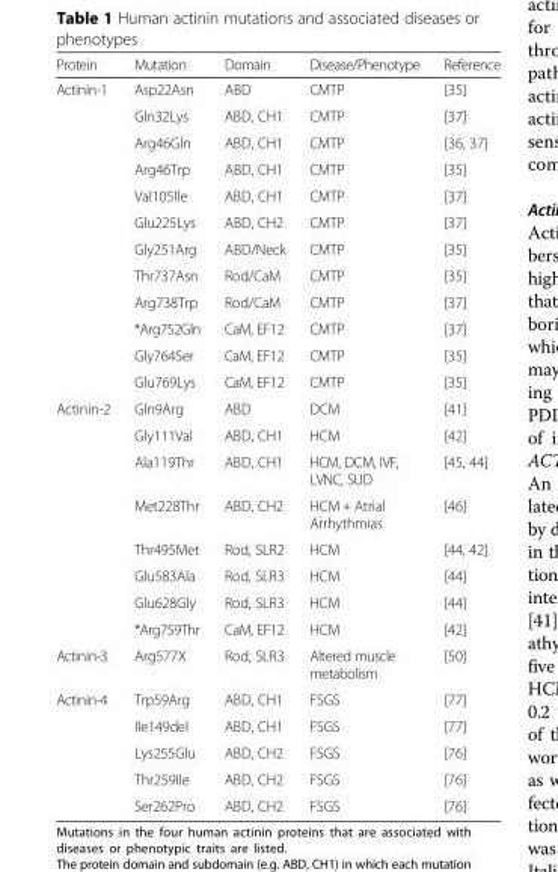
<table><thead><tr><td>Protein</td><td>Mutation</td><td>Domain</td><td>Disease/Phenotype</td><td>Reference</td></tr></thead><tbody><tr><td rowspan="12">Actinin-1</td><td>Asp22Asn</td><td>ABD</td><td>CMTP</td><td>[35]</td></tr><tr><td>Gln32Lys</td><td>ABD, CH1</td><td>CMTP</td><td>[37]</td></tr><tr><td>Arg46Gln</td><td>ABD, CH1</td><td>CMTP</td><td>[36, 37]</td></tr><tr><td>Arg46Trp</td><td>ABD, CH1</td><td>CMTP</td><td>[35]</td></tr><tr><td>Val105Ile</td><td>ABD, CH1</td><td>CMTP</td><td>[37]</td></tr><tr><td>Glu225Lys</td><td>ABD, CH2</td><td>CMTP</td><td>[37]</td></tr><tr><td>Gly251Arg</td><td>ABD/Neck</td><td>CMTP</td><td>[35]</td></tr><tr><td>Thr737Asn</td><td>Rod/CaM</td><td>CMTP</td><td>[35]</td></tr><tr><td>Arg738Trp</td><td>Rod/CaM</td><td>CMTP</td><td>[37]</td></tr><tr><td>*Arg752Gln</td><td>CaM, EF12</td><td>CMTP</td><td>[37]</td></tr><tr><td>Gly764Ser</td><td>CaM, EF12</td><td>CMTP</td><td>[35]</td></tr><tr><td>Glu769Lys</td><td>CaM, EF12</td><td>CMTP</td><td>[35]</td></tr><tr><td rowspan="8">Actinin-2</td><td>Gln9Arg</td><td>ABD</td><td>DCM</td><td>[41]</td></tr><tr><td>Gly111Val</td><td>ABD, CH1</td><td>HCM</td><td>[42]</td></tr><tr><td>Ala119Thr</td><td>ABD, CH1</td><td>HCM, DCM, IVF, LVNC, SUD</td><td>[45, 44]</td></tr><tr><td>Met228Thr</td><td>ABD, CH2</td><td>HCM + Atrial Arrhythmias</td><td>[46]</td></tr><tr><td>Thr495Met</td><td>Rod, SLR2</td><td>HCM</td><td>[44, 42]</td></tr><tr><td>Glu583Ala</td><td>Rod, SLR3</td><td>HCM</td><td>[44]</td></tr><tr><td>Glu628Gly</td><td>Rod, SLR3</td><td>HCM</td><td>[44]</td></tr><tr><td>*Arg759Thr</td><td>CaM, EF12</td><td>HCM</td><td>[42]</td></tr><tr><td>Actinin-3</td><td>Arg577X</td><td>Rod, SLR3</td><td>Altered muscle metabolism</td><td>[50]</td></tr><tr><td rowspan="5">Actinin-4</td><td>Trp59Arg</td><td>ABD, CH1</td><td>FSGS</td><td>[77]</td></tr><tr><td>Ile149del</td><td>ABD, CH1</td><td>FSGS</td><td>[77]</td></tr><tr><td>Lys255Glu</td><td>ABD, CH2</td><td>FSGS</td><td>[76]</td></tr><tr><td>Thr259Ile</td><td>ABD, CH2</td><td>FSGS</td><td>[76]</td></tr><tr><td>Ser262Pro</td><td>ABD, CH2</td><td>FSGS</td><td>[76]</td></tr></tbody></table>